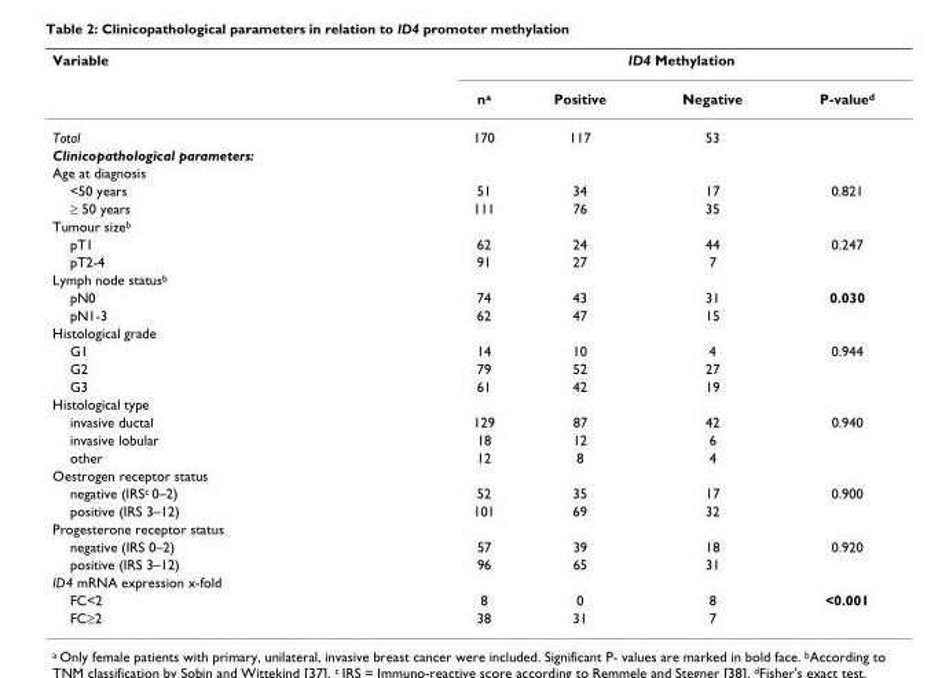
<table><thead><tr><td rowspan="2">Variable</td><td colspan="4">ID4 Methylation</td></tr><tr><td>n<sup>a</sup></td><td>Positive</td><td>Negative</td><td>P-value<sup>d</sup></td></tr></thead><tbody><tr><td>Total</td><td>170</td><td>117</td><td>53</td><td></td></tr><tr><td colspan="5">Clinicopathological parameters:</td></tr><tr><td colspan="5">Age at diagnosis</td></tr><tr><td>&lt;50 years</td><td>51</td><td>34</td><td>17</td><td>0.821</td></tr><tr><td>≥ 50 years</td><td>111</td><td>76</td><td>35</td><td></td></tr><tr><td colspan="5">Tumour size<sup>b</sup></td></tr><tr><td>pT1</td><td>62</td><td>24</td><td>44</td><td>0.247</td></tr><tr><td>pT2-4</td><td>91</td><td>27</td><td>7</td><td></td></tr><tr><td colspan="5">Lymph node status<sup>b</sup></td></tr><tr><td>pN0</td><td>74</td><td>43</td><td>31</td><td>0.030</td></tr><tr><td>pN1-3</td><td>62</td><td>47</td><td>15</td><td></td></tr><tr><td colspan="5">Histological grade</td></tr><tr><td>G1</td><td>14</td><td>10</td><td>4</td><td>0.944</td></tr><tr><td>G2</td><td>79</td><td>52</td><td>27</td><td></td></tr><tr><td>G3</td><td>61</td><td>42</td><td>19</td><td></td></tr><tr><td colspan="5">Histological type</td></tr><tr><td>invasive ductal</td><td>129</td><td>87</td><td>42</td><td>0.940</td></tr><tr><td>invasive lobular</td><td>18</td><td>12</td><td>6</td><td></td></tr><tr><td>other</td><td>12</td><td>8</td><td>4</td><td></td></tr><tr><td colspan="5">Oestrogen receptor status</td></tr><tr><td>negative (IRS<sup>c</sup> 0–2)</td><td>52</td><td>35</td><td>17</td><td>0.900</td></tr><tr><td>positive (IRS 3–12)</td><td>101</td><td>69</td><td>32</td><td></td></tr><tr><td colspan="5">Progesterone receptor status</td></tr><tr><td>negative (IRS 0–2)</td><td>57</td><td>39</td><td>18</td><td>0.920</td></tr><tr><td>positive (IRS 3–12)</td><td>96</td><td>65</td><td>31</td><td></td></tr><tr><td colspan="5">ID4 mRNA expression x-fold</td></tr><tr><td>FC&lt;2</td><td>8</td><td>0</td><td>8</td><td>&lt;0.001</td></tr><tr><td>FC≥2</td><td>38</td><td>31</td><td>7</td><td></td></tr></tbody></table>